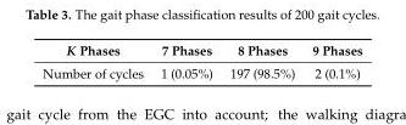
<table><thead><tr><td>K Phases</td><td>7 Phases</td><td>8 Phases</td><td>9 Phases</td></tr></thead><tbody><tr><td>Number of cycles</td><td>1 (0.05%)</td><td>197 (98.5%)</td><td>2 (0.1%)</td></tr></tbody></table>